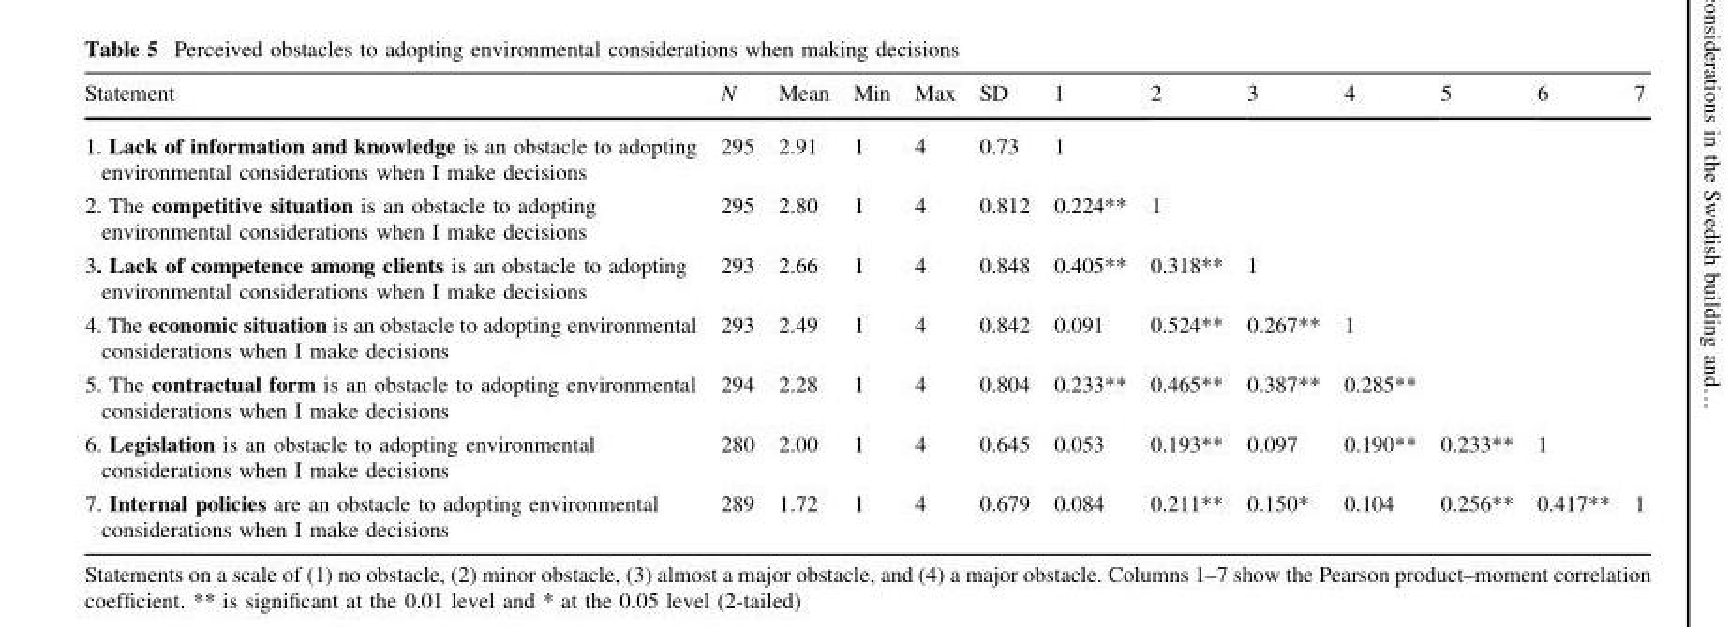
<table><thead><tr><td>Statement</td><td>N</td><td>Mean</td><td>Min</td><td>Max</td><td>SD</td><td>1</td><td>2</td><td>3</td><td>4</td><td>5</td><td>6</td><td>7</td></tr></thead><tbody><tr><td>1. Lack of information and knowledge is an obstacle to adopting environmental considerations when I make decisions</td><td>295</td><td>2.91</td><td>1</td><td>4</td><td>0.73</td><td>1</td><td></td><td></td><td></td><td></td><td></td><td></td></tr><tr><td>2. The competitive situation is an obstacle to adopting environmental considerations when I make decisions</td><td>295</td><td>2.80</td><td>1</td><td>4</td><td>0.812</td><td>0.224**</td><td>1</td><td></td><td></td><td></td><td></td><td></td></tr><tr><td>3. Lack of competence among clients is an obstacle to adopting environmental considerations when I make decisions</td><td>293</td><td>2.66</td><td>1</td><td>4</td><td>0.848</td><td>0.405**</td><td>0.318**</td><td>1</td><td></td><td></td><td></td><td></td></tr><tr><td>4. The economic situation is an obstacle to adopting environmental considerations when I make decisions</td><td>293</td><td>2.49</td><td>1</td><td>4</td><td>0.842</td><td>0.091</td><td>0.524**</td><td>0.267**</td><td>1</td><td></td><td></td><td></td></tr><tr><td>5. The contractual form is an obstacle to adopting environmental considerations when I make decisions</td><td>294</td><td>2.28</td><td>1</td><td>4</td><td>0.804</td><td>0.233**</td><td>0.465**</td><td>0.387**</td><td>0.285**</td><td></td><td></td><td></td></tr><tr><td>6. Legislation is an obstacle to adopting environmental considerations when I make decisions</td><td>280</td><td>2.00</td><td>1</td><td>4</td><td>0.645</td><td>0.053</td><td>0.193**</td><td>0.097</td><td>0.190**</td><td>0.233**</td><td>1</td><td></td></tr><tr><td>7. Internal policies are an obstacle to adopting environmental considerations when I make decisions</td><td>289</td><td>1.72</td><td>1</td><td>4</td><td>0.679</td><td>0.084</td><td>0.211**</td><td>0.150*</td><td>0.104</td><td>0.256**</td><td>0.417**</td><td>1</td></tr></tbody></table>